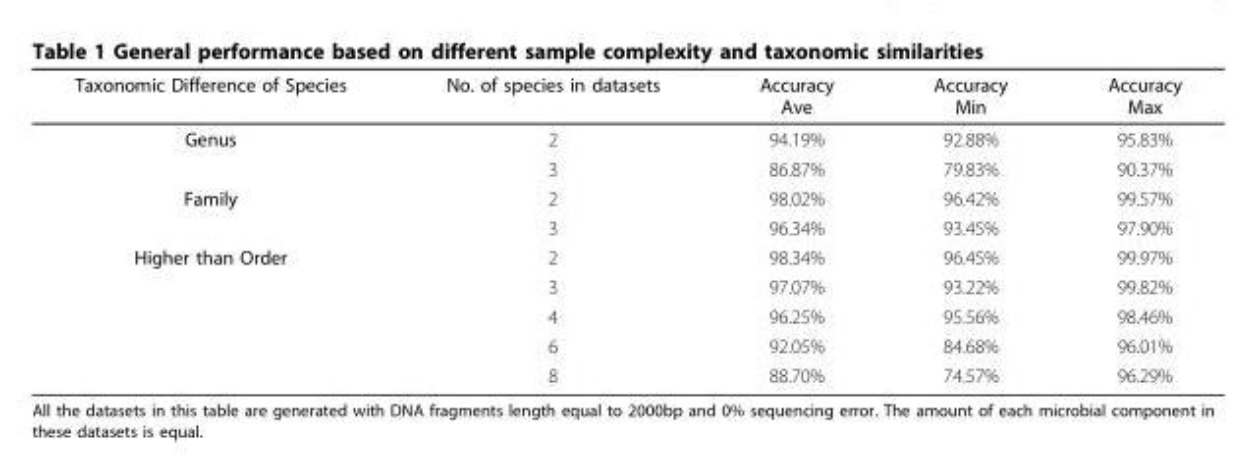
<table><thead><tr><td>Taxonomic Difference of Species</td><td>No. of species in datasets</td><td>Accuracy Ave</td><td>Accuracy Min</td><td>Accuracy Max</td></tr></thead><tbody><tr><td rowspan="2">Genus</td><td>2</td><td>94.19%</td><td>92.88%</td><td>95.83%</td></tr><tr><td>3</td><td>86.87%</td><td>79.83%</td><td>90.37%</td></tr><tr><td rowspan="2">Family</td><td>2</td><td>98.02%</td><td>96.42%</td><td>99.57%</td></tr><tr><td>3</td><td>96.34%</td><td>93.45%</td><td>97.90%</td></tr><tr><td rowspan="5">Higher than Order</td><td>2</td><td>98.34%</td><td>96.45%</td><td>99.97%</td></tr><tr><td>3</td><td>97.07%</td><td>93.22%</td><td>99.82%</td></tr><tr><td>4</td><td>96.25%</td><td>95.56%</td><td>98.46%</td></tr><tr><td>6</td><td>92.05%</td><td>84.68%</td><td>96.01%</td></tr><tr><td>8</td><td>88.70%</td><td>74.57%</td><td>96.29%</td></tr></tbody></table>